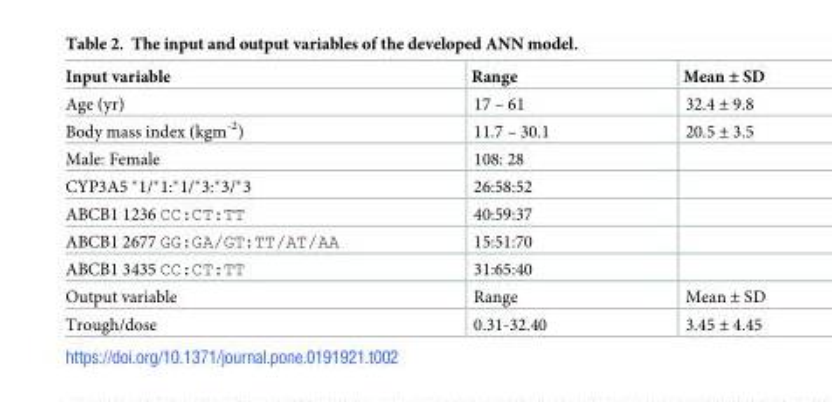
<table><thead><tr><td>Input variable</td><td>Range</td><td>Mean ± SD</td></tr></thead><tbody><tr><td>Age (yr)</td><td>17 – 61</td><td>32.4 ± 9.8</td></tr><tr><td>Body mass index (kgm<sup>-2</sup>)</td><td>11.7 – 30.1</td><td>20.5 ± 3.5</td></tr><tr><td>Male: Female</td><td>108: 28</td><td></td></tr><tr><td>CYP3A5 *1/*1:*1/*3:*3/*3</td><td>26:58:52</td><td></td></tr><tr><td>ABCB1 1236 CC:CT:TT</td><td>40:59:37</td><td></td></tr><tr><td>ABCB1 2677 GG:GA/GT:TT/AT/AA</td><td>15:51:70</td><td></td></tr><tr><td>ABCB1 3435 CC:CT:TT</td><td>31:65:40</td><td></td></tr><tr><td>Output variable</td><td>Range</td><td>Mean ± SD</td></tr><tr><td>Trough/dose</td><td>0.31-32.40</td><td>3.45 ± 4.45</td></tr></tbody></table>